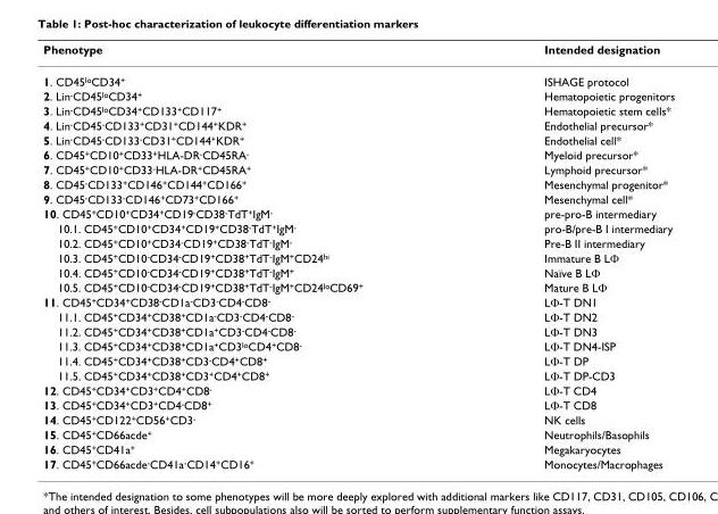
<table><thead><tr><td>Phenotype</td><td>Intended designation</td></tr></thead><tbody><tr><td>1. CD45<sup>lo</sup>CD34<sup>+</sup></td><td>ISHAGE protocol</td></tr><tr><td>2. Lin<sup>-</sup>CD45<sup>lo</sup>CD34<sup>+</sup></td><td>Hematopoietic progenitors</td></tr><tr><td>3. Lin<sup>-</sup>CD45<sup>lo</sup>CD34<sup>+</sup>CD133<sup>+</sup>CD117<sup>+</sup></td><td>Hematopoietic stem cells*</td></tr><tr><td>4. Lin<sup>-</sup>CD45<sup>-</sup>CD133<sup>+</sup>CD31<sup>+</sup>CD144<sup>+</sup>KDR<sup>+</sup></td><td>Endothelial precursor*</td></tr><tr><td>5. Lin<sup>-</sup>CD45<sup>-</sup>CD133<sup>-</sup>CD31<sup>+</sup>CD144<sup>+</sup>KDR<sup>+</sup></td><td>Endothelial cell*</td></tr><tr><td>6. CD45<sup>+</sup>CD10<sup>+</sup>CD33<sup>+</sup>HLA-DR<sup>-</sup>CD45RA<sup>-</sup></td><td>Myeloid precursor*</td></tr><tr><td>7. CD45<sup>+</sup>CD10<sup>+</sup>CD33<sup>-</sup>HLA-DR<sup>+</sup>CD45RA<sup>+</sup></td><td>Lymphoid precursor*</td></tr><tr><td>8. CD45<sup>-</sup>CD133<sup>+</sup>CD146<sup>+</sup>CD144<sup>+</sup>CD166<sup>+</sup></td><td>Mesenchymal progenitor*</td></tr><tr><td>9. CD45<sup>-</sup>CD133<sup>-</sup>CD146<sup>+</sup>CD73<sup>+</sup>CD166<sup>+</sup></td><td>Mesenchymal cell*</td></tr><tr><td>10. CD45<sup>+</sup>CD10<sup>+</sup>CD34<sup>+</sup>CD19<sup>-</sup>CD38<sup>-</sup>TdT<sup>+</sup>IgM<sup>-</sup></td><td>pre-pro-B intermediary</td></tr><tr><td>10.1. CD45<sup>+</sup>CD10<sup>+</sup>CD34<sup>+</sup>CD19<sup>+</sup>CD38<sup>-</sup>TdT<sup>+</sup>IgM<sup>-</sup></td><td>pro-B/pre-B I intermediary</td></tr><tr><td>10.2. CD45<sup>+</sup>CD10<sup>+</sup>CD34<sup>-</sup>CD19<sup>+</sup>CD38<sup>-</sup>TdT<sup>-</sup>IgM<sup>-</sup></td><td>Pre-B II intermediary</td></tr><tr><td>10.3. CD45<sup>+</sup>CD10<sup>-</sup>CD34<sup>-</sup>CD19<sup>+</sup>CD38<sup>+</sup>TdT<sup>-</sup>IgM<sup>+</sup>CD24<sup>hi</sup></td><td>Immature B LΦ</td></tr><tr><td>10.4. CD45<sup>+</sup>CD10<sup>-</sup>CD34<sup>-</sup>CD19<sup>+</sup>CD38<sup>+</sup>TdT<sup>-</sup>IgM<sup>+</sup></td><td>Naïve B LΦ</td></tr><tr><td>10.5. CD45<sup>+</sup>CD10<sup>-</sup>CD34<sup>-</sup>CD19<sup>+</sup>CD38<sup>+</sup>TdT<sup>-</sup>IgM<sup>+</sup>CD24<sup>lo</sup>CD69<sup>+</sup></td><td>Mature B LΦ</td></tr><tr><td>11. CD45<sup>+</sup>CD34<sup>+</sup>CD38<sup>-</sup>CD1a<sup>-</sup>CD3<sup>-</sup>CD4<sup>-</sup>CD8<sup>-</sup></td><td>LΦ-T DN1</td></tr><tr><td>11.1. CD45<sup>+</sup>CD34<sup>+</sup>CD38<sup>+</sup>CD1a<sup>-</sup>CD3<sup>-</sup>CD4<sup>-</sup>CD8<sup>-</sup></td><td>LΦ-T DN2</td></tr><tr><td>11.2. CD45<sup>+</sup>CD34<sup>+</sup>CD38<sup>+</sup>CD1a<sup>+</sup>CD3<sup>-</sup>CD4<sup>-</sup>CD8<sup>-</sup></td><td>LΦ-T DN3</td></tr><tr><td>11.3. CD45<sup>+</sup>CD34<sup>+</sup>CD38<sup>+</sup>CD1a<sup>+</sup>CD3<sup>lo</sup>CD4<sup>+</sup>CD8<sup>-</sup></td><td>LΦ-T DN4-ISP</td></tr><tr><td>11.4. CD45<sup>+</sup>CD34<sup>+</sup>CD38<sup>+</sup>CD3<sup>-</sup>CD4<sup>+</sup>CD8<sup>+</sup></td><td>LΦ-T DP</td></tr><tr><td>11.5. CD45<sup>+</sup>CD34<sup>+</sup>CD38<sup>+</sup>CD3<sup>+</sup>CD4<sup>+</sup>CD8<sup>+</sup></td><td>LΦ-T DP-CD3</td></tr><tr><td>12. CD45<sup>+</sup>CD34<sup>+</sup>CD3<sup>+</sup>CD4<sup>+</sup>CD8<sup>-</sup></td><td>LΦ-T CD4</td></tr><tr><td>13. CD45<sup>+</sup>CD34<sup>+</sup>CD3<sup>+</sup>CD4<sup>-</sup>CD8<sup>+</sup></td><td>LΦ-T CD8</td></tr><tr><td>14. CD45<sup>+</sup>CD122<sup>+</sup>CD56<sup>+</sup>CD3<sup>-</sup></td><td>NK cells</td></tr><tr><td>15. CD45<sup>+</sup>CD66acde<sup>+</sup></td><td>Neutrophils/Basophils</td></tr><tr><td>16. CD45<sup>+</sup>CD41a<sup>+</sup></td><td>Megakaryocytes</td></tr><tr><td>17. CD45<sup>+</sup>CD66acde<sup>-</sup>CD41a<sup>-</sup>CD14<sup>+</sup>CD16<sup>+</sup></td><td>Monocytes/Macrophages</td></tr></tbody></table>